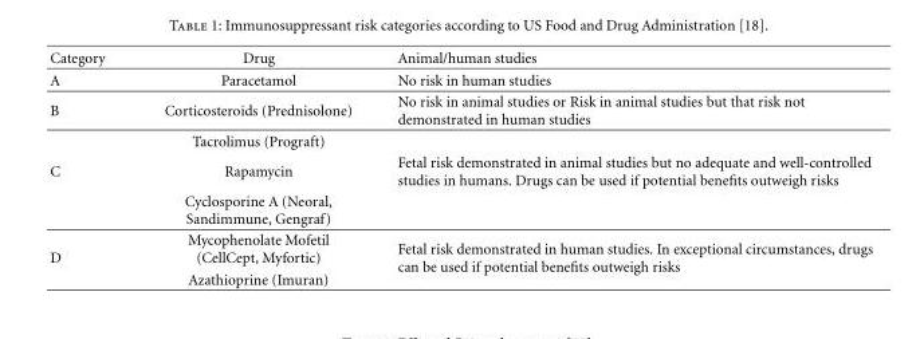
<table><thead><tr><td>Category</td><td>Drug</td><td>Animal/human studies</td></tr></thead><tbody><tr><td>A</td><td>Paracetamol</td><td>No risk in human studies</td></tr><tr><td rowspan="2">B</td><td>Corticosteroids (Prednisolone)</td><td>No risk in animal studies or Risk in animal studies but that risk not demonstrated in human studies</td></tr><tr><td>Tacrolimus (Prograft)</td><td></td></tr><tr><td rowspan="2">C</td><td>Rapamycin</td><td>Fetal risk demonstrated in animal studies but no adequate and well-controlled studies in humans. Drugs can be used if potential benefits outweigh risks</td></tr><tr><td>Cyclosporine A (Neoral, Sandimmune, Gengraf)</td><td></td></tr><tr><td rowspan="2">D</td><td>Mycophenolate Mofetil (CellCept, Myfortic)</td><td rowspan="2">Fetal risk demonstrated in human studies. In exceptional circumstances, drugs can be used if potential benefits outweigh risks</td></tr><tr><td>Azathioprine (Imuran)</td></tr></tbody></table>